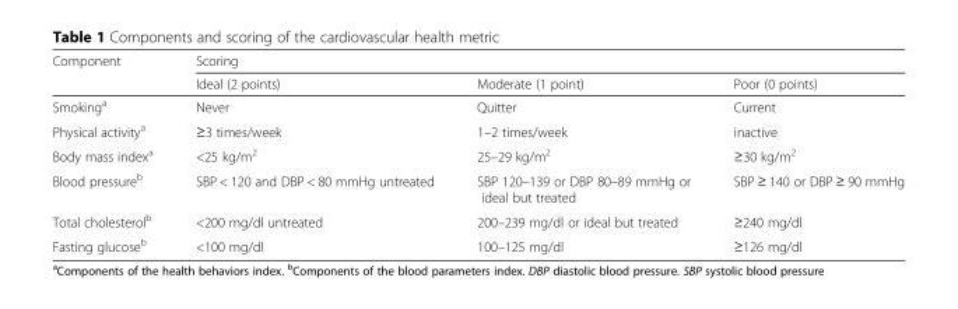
<table><thead><tr><td rowspan="2">Component</td><td colspan="3">Scoring</td></tr><tr><td>Ideal (2 points)</td><td>Moderate (1 point)</td><td>Poor (0 points)</td></tr></thead><tbody><tr><td>Smoking<sup>a</sup></td><td>Never</td><td>Quitter</td><td>Current</td></tr><tr><td>Physical activity<sup>a</sup></td><td>≥3 times/week</td><td>1–2 times/week</td><td>inactive</td></tr><tr><td>Body mass index<sup>a</sup></td><td>&lt;25 kg/m<sup>2</sup></td><td>25–29 kg/m<sup>2</sup></td><td>≥30 kg/m<sup>2</sup></td></tr><tr><td>Blood pressure<sup>b</sup></td><td>SBP &lt; 120 and DBP &lt; 80 mmHg untreated</td><td>SBP 120–139 or DBP 80–89 mmHg or ideal but treated</td><td>SBP ≥ 140 or DBP ≥ 90 mmHg</td></tr><tr><td>Total cholesterol<sup>b</sup></td><td>&lt;200 mg/dl untreated</td><td>200–239 mg/dl or ideal but treated</td><td>≥240 mg/dl</td></tr><tr><td>Fasting glucose<sup>b</sup></td><td>&lt;100 mg/dl</td><td>100–125 mg/dl</td><td>≥126 mg/dl</td></tr></tbody></table>